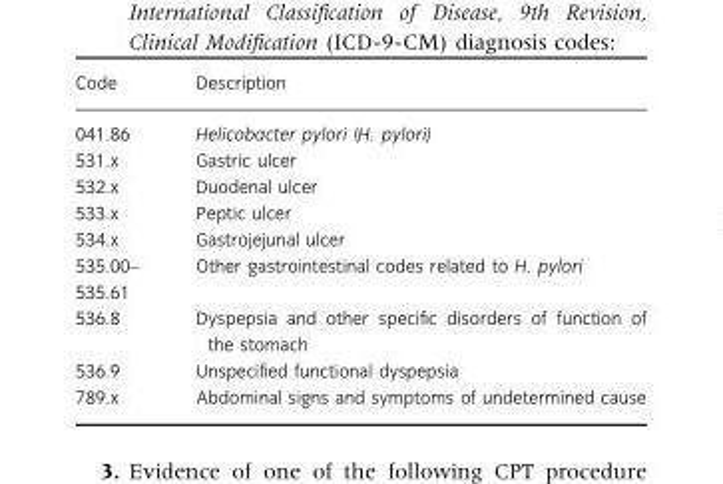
<table><thead><tr><td>Code</td><td>Description</td></tr></thead><tbody><tr><td>041.86</td><td>Helicobacter pylori (H. pylori)</td></tr><tr><td>531.x</td><td>Gastric ulcer</td></tr><tr><td>532.x</td><td>Duodenal ulcer</td></tr><tr><td>533.x</td><td>Peptic ulcer</td></tr><tr><td>534.x</td><td>Gastrojejunal ulcer</td></tr><tr><td>535.00– 535.61</td><td>Other gastrointestinal codes related to H. pylori</td></tr><tr><td>536.8</td><td>Dyspepsia and other specific disorders of function of the stomach</td></tr><tr><td>536.9</td><td>Unspecified functional dyspepsia</td></tr><tr><td>789.x</td><td>Abdominal signs and symptoms of undetermined cause</td></tr></tbody></table>